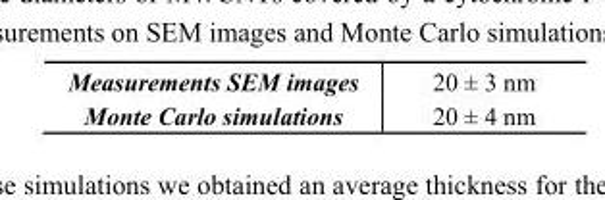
<table><tbody><tr><td>Measurements SEM images</td><td>20 ± 3 nm</td></tr><tr><td>Monte Carlo simulations</td><td>20 ± 4 nm</td></tr></tbody></table>